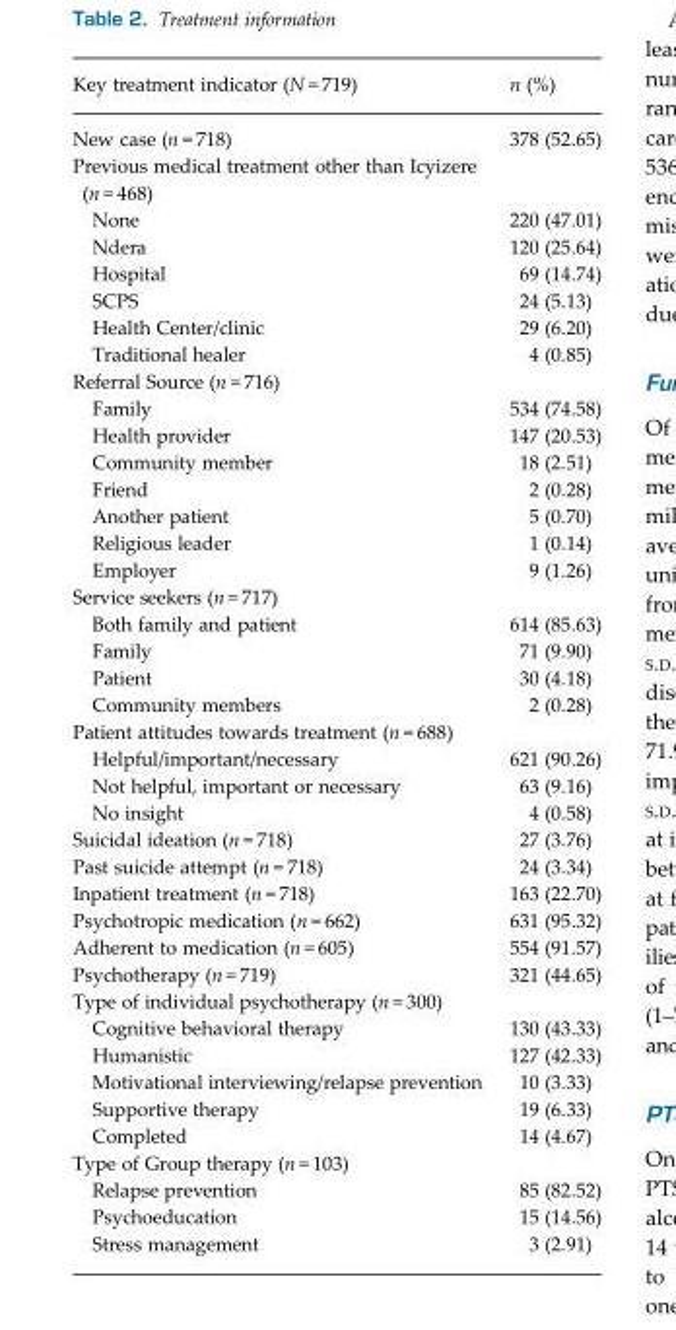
<table><thead><tr><td>Key treatment indicator (N = 719)</td><td>n (%)</td></tr></thead><tbody><tr><td>New case (n = 718)</td><td>378 (52.65)</td></tr><tr><td colspan="2">Previous medical treatment other than Icyizere (n = 468)</td></tr><tr><td>None</td><td>220 (47.01)</td></tr><tr><td>Ndera</td><td>120 (25.64)</td></tr><tr><td>Hospital</td><td>69 (14.74)</td></tr><tr><td>SCPS</td><td>24 (5.13)</td></tr><tr><td>Health Center/clinic</td><td>29 (6.20)</td></tr><tr><td>Traditional healer</td><td>4 (0.85)</td></tr><tr><td colspan="2">Referral Source (n = 716)</td></tr><tr><td>Family</td><td>534 (74.58)</td></tr><tr><td>Health provider</td><td>147 (20.53)</td></tr><tr><td>Community member</td><td>18 (2.51)</td></tr><tr><td>Friend</td><td>2 (0.28)</td></tr><tr><td>Another patient</td><td>5 (0.70)</td></tr><tr><td>Religious leader</td><td>1 (0.14)</td></tr><tr><td>Employer</td><td>9 (1.26)</td></tr><tr><td colspan="2">Service seekers (n = 717)</td></tr><tr><td>Both family and patient</td><td>614 (85.63)</td></tr><tr><td>Family</td><td>71 (9.90)</td></tr><tr><td>Patient</td><td>30 (4.18)</td></tr><tr><td>Community members</td><td>2 (0.28)</td></tr><tr><td colspan="2">Patient attitudes towards treatment (n = 688)</td></tr><tr><td>Helpful/important/necessary</td><td>621 (90.26)</td></tr><tr><td>Not helpful, important or necessary</td><td>63 (9.16)</td></tr><tr><td>No insight</td><td>4 (0.58)</td></tr><tr><td>Suicidal ideation (n = 718)</td><td>27 (3.76)</td></tr><tr><td>Past suicide attempt (n = 718)</td><td>24 (3.34)</td></tr><tr><td>Inpatient treatment (n = 718)</td><td>163 (22.70)</td></tr><tr><td>Psychotropic medication (n = 662)</td><td>631 (95.32)</td></tr><tr><td>Adherent to medication (n = 605)</td><td>554 (91.57)</td></tr><tr><td>Psychotherapy (n = 719)</td><td>321 (44.65)</td></tr><tr><td colspan="2">Type of individual psychotherapy (n = 300)</td></tr><tr><td>Cognitive behavioral therapy</td><td>130 (43.33)</td></tr><tr><td>Humanistic</td><td>127 (42.33)</td></tr><tr><td>Motivational interviewing/relapse prevention</td><td>10 (3.33)</td></tr><tr><td>Supportive therapy</td><td>19 (6.33)</td></tr><tr><td>Completed</td><td>14 (4.67)</td></tr><tr><td colspan="2">Type of Group therapy (n = 103)</td></tr><tr><td>Relapse prevention</td><td>85 (82.52)</td></tr><tr><td>Psychoeducation</td><td>15 (14.56)</td></tr><tr><td>Stress management</td><td>3 (2.91)</td></tr></tbody></table>